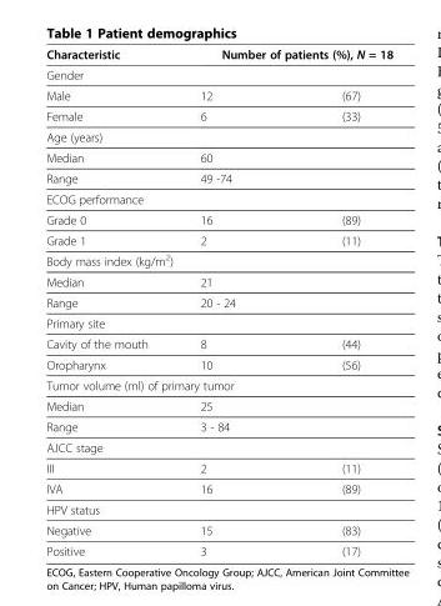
<table><thead><tr><td>Characteristic</td><td colspan="2">Number of patients (%), N = 18</td></tr><tr><td colspan="3">Gender</td></tr><tr><td>Male</td><td>12</td><td>(67)</td></tr></thead><tbody><tr><td>Female</td><td>6</td><td>(33)</td></tr><tr><td colspan="3">Age (years)</td></tr><tr><td>Median</td><td>60</td><td></td></tr><tr><td>Range</td><td>49 -74</td><td></td></tr><tr><td colspan="3">ECOG performance</td></tr><tr><td>Grade 0</td><td>16</td><td>(89)</td></tr><tr><td>Grade 1</td><td>2</td><td>(11)</td></tr><tr><td colspan="3">Body mass index (kg/m<sup>2</sup>)</td></tr><tr><td>Median</td><td>21</td><td></td></tr><tr><td>Range</td><td>20 - 24</td><td></td></tr><tr><td colspan="3">Primary site</td></tr><tr><td>Cavity of the mouth</td><td>8</td><td>(44)</td></tr><tr><td>Oropharynx</td><td>10</td><td>(56)</td></tr><tr><td colspan="3">Tumor volume (ml) of primary tumor</td></tr><tr><td>Median</td><td>25</td><td></td></tr><tr><td>Range</td><td>3 - 84</td><td></td></tr><tr><td colspan="3">AJCC stage</td></tr><tr><td>III</td><td>2</td><td>(11)</td></tr><tr><td>IVA</td><td>16</td><td>(89)</td></tr><tr><td colspan="3">HPV status</td></tr><tr><td>Negative</td><td>15</td><td>(83)</td></tr><tr><td>Positive</td><td>3</td><td>(17)</td></tr></tbody></table>